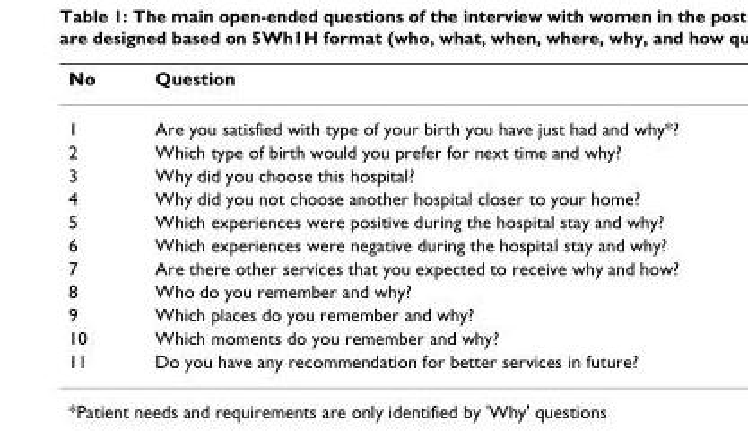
<table><thead><tr><td>No</td><td>Question</td></tr></thead><tbody><tr><td>1</td><td>Are you satisfied with type of your birth you have just had and why*?</td></tr><tr><td>2</td><td>Which type of birth would you prefer for next time and why?</td></tr><tr><td>3</td><td>Why did you choose this hospital?</td></tr><tr><td>4</td><td>Why did you not choose another hospital closer to your home?</td></tr><tr><td>5</td><td>Which experiences were positive during the hospital stay and why?</td></tr><tr><td>6</td><td>Which experiences were negative during the hospital stay and why?</td></tr><tr><td>7</td><td>Are there other services that you expected to receive why and how?</td></tr><tr><td>8</td><td>Who do you remember and why?</td></tr><tr><td>9</td><td>Which places do you remember and why?</td></tr><tr><td>10</td><td>Which moments do you remember and why?</td></tr><tr><td>11</td><td>Do you have any recommendation for better services in future?</td></tr></tbody></table>